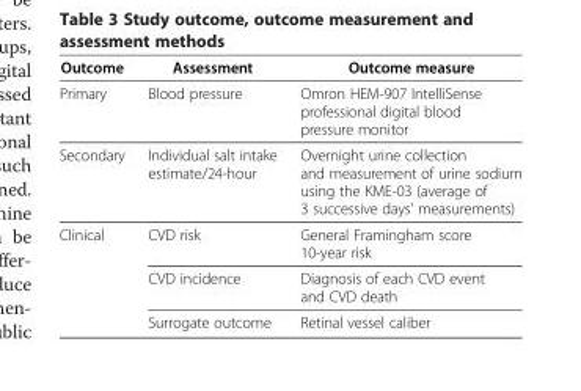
<table><thead><tr><td>Outcome</td><td>Assessment</td><td>Outcome measure</td></tr></thead><tbody><tr><td>Primary</td><td>Blood pressure</td><td>Omron HEM-907 IntelliSense professional digital blood pressure monitor</td></tr><tr><td>Secondary</td><td>Individual salt intake estimate/24-hour</td><td>Overnight urine collection and measurement of urine sodium using the KME-03 (average of 3 successive days’ measurements)</td></tr><tr><td rowspan="3">Clinical</td><td>CVD risk</td><td>General Framingham score 10-year risk</td></tr><tr><td>CVD incidence</td><td>Diagnosis of each CVD event and CVD death</td></tr><tr><td>Surrogate outcome</td><td>Retinal vessel caliber</td></tr></tbody></table>